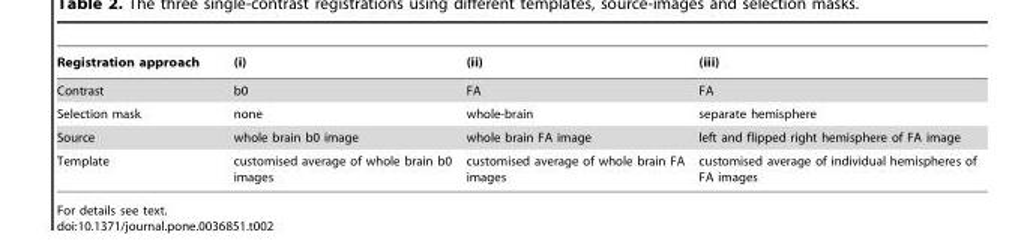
<table><thead><tr><td>Registration approach</td><td>(i)</td><td>(ii)</td><td>(iii)</td></tr></thead><tbody><tr><td>Contrast</td><td>b0</td><td>FA</td><td>FA</td></tr><tr><td>Selection mask</td><td>none</td><td>whole-brain</td><td>separate hemisphere</td></tr><tr><td>Source</td><td>whole brain b0 image</td><td>whole brain FA image</td><td>left and flipped right hemisphere of FA image</td></tr><tr><td>Template</td><td>customised average of whole brain b0 images</td><td>customised average of whole brain FA images</td><td>customised average of individual hemispheres of FA images</td></tr></tbody></table>